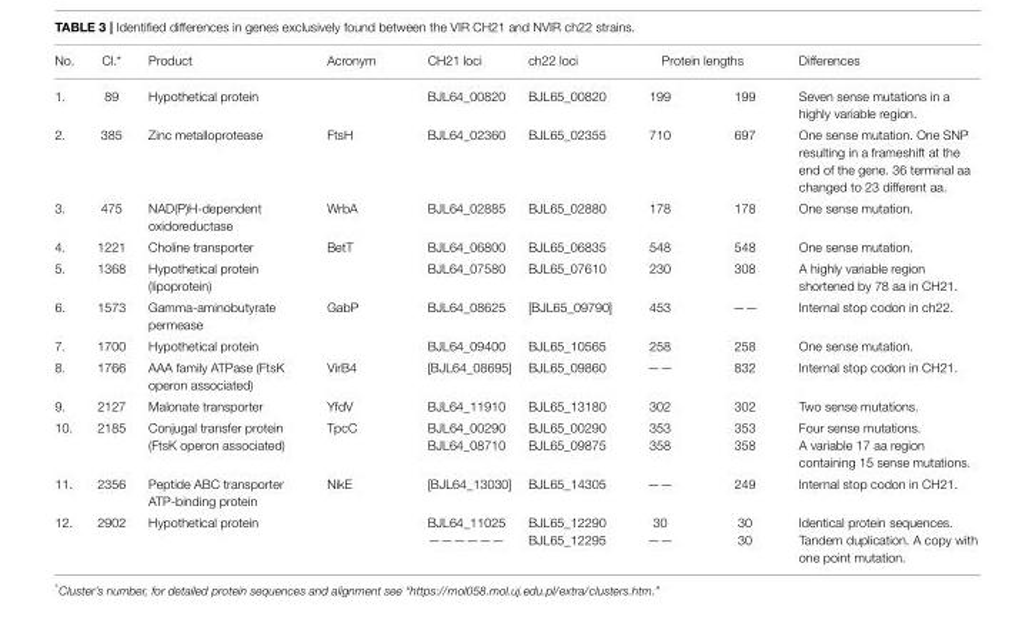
<table><thead><tr><td rowspan="2">No. 1.</td><td rowspan="2">Cl.* 89</td><td rowspan="2">Product Hypothetical protein</td><td rowspan="2">Acronym</td><td rowspan="2">CH21 loci BJL64_00820</td><td rowspan="2">ch22 loci BJL65_00820</td><td colspan="2">Protein lengths</td><td rowspan="2">Differences Seven sense mutations in a highly variable region.</td></tr><tr><td>199</td><td>199</td></tr></thead><tbody><tr><td>2.</td><td>385</td><td>Zinc metalloprotease</td><td>FtsH</td><td>BJL64_02360</td><td>BJL65_02355</td><td>710</td><td>697</td><td>One sense mutation. One SNP resulting in a frameshift at the end of the gene. 36 terminal aa changed to 23 different aa.</td></tr><tr><td>3.</td><td>475</td><td>NAD(P)H-dependent oxidoreductase</td><td>WrbA</td><td>BJL64_02885</td><td>BJL65_02880</td><td>178</td><td>178</td><td>One sense mutation.</td></tr><tr><td>4.</td><td>1221</td><td>Choline transporter</td><td>BetT</td><td>BJL64_06800</td><td>BJL65_06835</td><td>548</td><td>548</td><td>One sense mutation.</td></tr><tr><td>5.</td><td>1368</td><td>Hypothetical protein (lipoprotein)</td><td></td><td>BJL64_07580</td><td>BJL65_07610</td><td>230</td><td>308</td><td>A highly variable region shortened by 78 aa in CH21.</td></tr><tr><td>6.</td><td>1573</td><td>Gamma-aminobutyrate permease</td><td>GabP</td><td>BJL64_08625</td><td>[BJL65_09790]</td><td>453</td><td>——</td><td>Internal stop codon in ch22.</td></tr><tr><td>7.</td><td>1700</td><td>Hypothetical protein</td><td></td><td>BJL64_09400</td><td>BJL65_10565</td><td>258</td><td>258</td><td>One sense mutation.</td></tr><tr><td>8.</td><td>1766</td><td>AAA family ATPase (FtsK operon associated)</td><td>VirB4</td><td>[BJL64_08695]</td><td>BJL65_09860</td><td>——</td><td>832</td><td>Internal stop codon in CH21.</td></tr><tr><td>9.</td><td>2127</td><td>Malonate transporter</td><td>YfdV</td><td>BJL64_11910</td><td>BJL65_13180</td><td>302</td><td>302</td><td>Two sense mutations.</td></tr><tr><td>10.</td><td>2185</td><td>Conjugal transfer protein (FtsK operon associated)</td><td>TpcC</td><td>BJL64_00290 BJL64_08710</td><td>BJL65_00290 BJL65_09875</td><td>353 358</td><td>353 358</td><td>Four sense mutations. A variable 17 aa region containing 15 sense mutations.</td></tr><tr><td>11.</td><td>2356</td><td>Peptide ABC transporter ATP-binding protein</td><td>NikE</td><td>[BJL64_13030]</td><td>BJL65_14305</td><td>——</td><td>249</td><td>Internal stop codon in CH21.</td></tr><tr><td>12.</td><td>2902</td><td>Hypothetical protein</td><td></td><td>BJL64_11025 ——————</td><td>BJL65_12290 BJL65_12295</td><td>30 ——</td><td>30 30</td><td>Identical protein sequences. Tandem duplication. A copy with one point mutation.</td></tr></tbody></table>